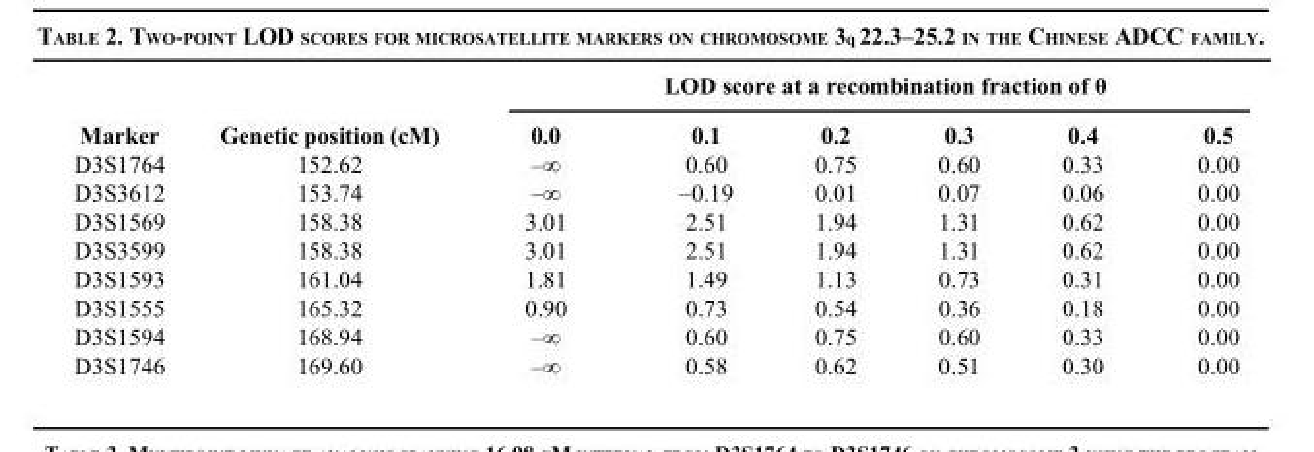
<table><thead><tr><td rowspan="2">Marker</td><td rowspan="2">Genetic position (cM)</td><td colspan="6">LOD score at a recombination fraction of θ</td></tr><tr><td>0.0</td><td>0.1</td><td>0.2</td><td>0.3</td><td>0.4</td><td>0.5</td></tr></thead><tbody><tr><td>D3S1764</td><td>152.62</td><td>–∞</td><td>0.60</td><td>0.75</td><td>0.60</td><td>0.33</td><td>0.00</td></tr><tr><td>D3S3612</td><td>153.74</td><td>–∞</td><td>–0.19</td><td>0.01</td><td>0.07</td><td>0.06</td><td>0.00</td></tr><tr><td>D3S1569</td><td>158.38</td><td>3.01</td><td>2.51</td><td>1.94</td><td>1.31</td><td>0.62</td><td>0.00</td></tr><tr><td>D3S3599</td><td>158.38</td><td>3.01</td><td>2.51</td><td>1.94</td><td>1.31</td><td>0.62</td><td>0.00</td></tr><tr><td>D3S1593</td><td>161.04</td><td>1.81</td><td>1.49</td><td>1.13</td><td>0.73</td><td>0.31</td><td>0.00</td></tr><tr><td>D3S1555</td><td>165.32</td><td>0.90</td><td>0.73</td><td>0.54</td><td>0.36</td><td>0.18</td><td>0.00</td></tr><tr><td>D3S1594</td><td>168.94</td><td>–∞</td><td>0.60</td><td>0.75</td><td>0.60</td><td>0.33</td><td>0.00</td></tr><tr><td>D3S1746</td><td>169.60</td><td>–∞</td><td>0.58</td><td>0.62</td><td>0.51</td><td>0.30</td><td>0.00</td></tr></tbody></table>